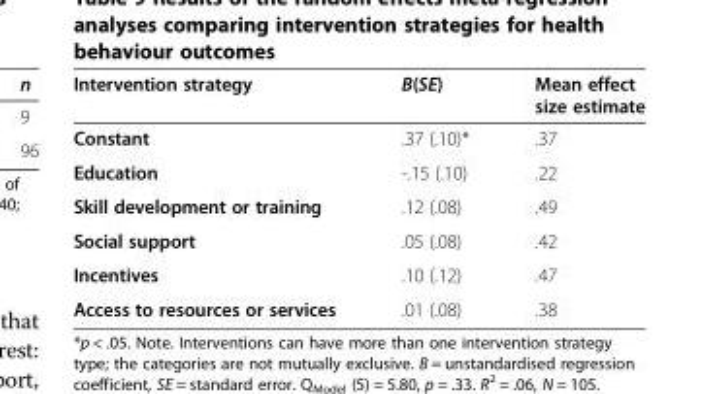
<table><thead><tr><td>Intervention strategy</td><td>B(SE)</td><td>Mean effect size estimate</td></tr></thead><tbody><tr><td>Constant</td><td>.37 (.10)*</td><td>.37</td></tr><tr><td>Education</td><td>-.15 (.10)</td><td>.22</td></tr><tr><td>Skill development or training</td><td>.12 (.08)</td><td>.49</td></tr><tr><td>Social support</td><td>.05 (.08)</td><td>.42</td></tr><tr><td>Incentives</td><td>.10 (.12)</td><td>.47</td></tr><tr><td>Access to resources or services</td><td>.01 (.08)</td><td>.38</td></tr></tbody></table>